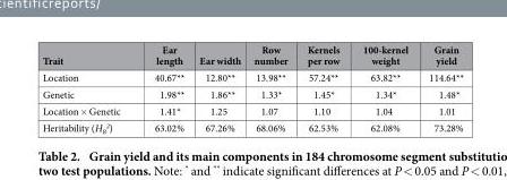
<table><thead><tr><td>Trait</td><td>Ear length</td><td>Ear width</td><td>Row number</td><td>Kernels per row</td><td>100-kernel weight</td><td>Grain yield</td></tr></thead><tbody><tr><td>Location</td><td>40.67**</td><td>12.80**</td><td>13.98**</td><td>57.24**</td><td>63.82**</td><td>114.64**</td></tr><tr><td>Genetic</td><td>1.98**</td><td>1.86**</td><td>1.33*</td><td>1.45*</td><td>1.34*</td><td>1.48*</td></tr><tr><td>Location × Genetic</td><td>1.41*</td><td>1.25</td><td>1.07</td><td>1.10</td><td>1.04</td><td>1.01</td></tr><tr><td>Heritability (H<sub>B</sub> <sup>2</sup>)</td><td>63.02%</td><td>67.26%</td><td>68.06%</td><td>62.53%</td><td>62.08%</td><td>73.28%</td></tr></tbody></table>